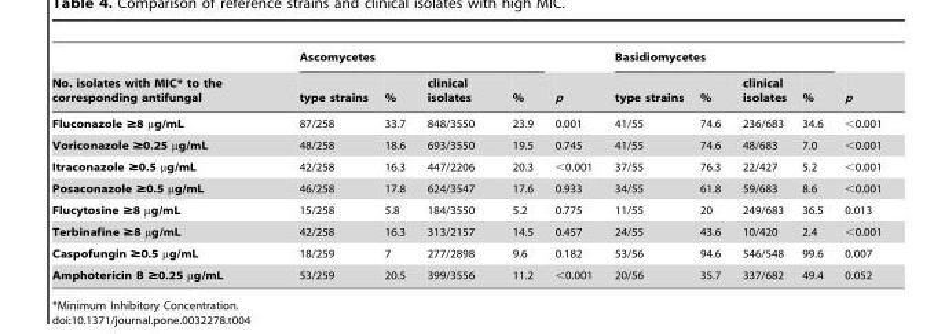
<table><thead><tr><td rowspan="2">No. isolates with MIC* to the corresponding antifungal</td><td colspan="4">Ascomycetes</td><td rowspan="2">p</td><td colspan="4">Basidiomycetes</td><td rowspan="2">p</td></tr><tr><td>type strains</td><td>%</td><td>clinical isolates</td><td>%</td><td>type strains</td><td>%</td><td>clinical isolates</td><td>%</td></tr></thead><tbody><tr><td>Fluconazole ≥8 µg/mL</td><td>87/258</td><td>33.7</td><td>848/3550</td><td>23.9</td><td>0.001</td><td>41/55</td><td>74.6</td><td>236/683</td><td>34.6</td><td>&lt;0.001</td></tr><tr><td>Voriconazole ≥0.25 µg/mL</td><td>48/258</td><td>18.6</td><td>693/3550</td><td>19.5</td><td>0.745</td><td>41/55</td><td>74.6</td><td>48/683</td><td>7.0</td><td>&lt;0.001</td></tr><tr><td>Itraconazole ≥0.5 µg/mL</td><td>42/258</td><td>16.3</td><td>447/2206</td><td>20.3</td><td>&lt;0.001</td><td>37/55</td><td>76.3</td><td>22/427</td><td>5.2</td><td>&lt;0.001</td></tr><tr><td>Posaconazole ≥0.5 µg/mL</td><td>46/258</td><td>17.8</td><td>624/3547</td><td>17.6</td><td>0.933</td><td>34/55</td><td>61.8</td><td>59/683</td><td>8.6</td><td>&lt;0.001</td></tr><tr><td>Flucytosine ≥8 µg/mL</td><td>15/258</td><td>5.8</td><td>184/3550</td><td>5.2</td><td>0.775</td><td>11/55</td><td>20</td><td>249/683</td><td>36.5</td><td>0.013</td></tr><tr><td>Terbinafine ≥8 µg/mL</td><td>42/258</td><td>16.3</td><td>313/2157</td><td>14.5</td><td>0.457</td><td>24/55</td><td>43.6</td><td>10/420</td><td>2.4</td><td>&lt;0.001</td></tr><tr><td>Caspofungin ≥0.5 µg/mL</td><td>18/259</td><td>7</td><td>277/2898</td><td>9.6</td><td>0.182</td><td>53/56</td><td>94.6</td><td>546/548</td><td>99.6</td><td>0.007</td></tr><tr><td>Amphotericin B ≥0.25 µg/mL</td><td>53/259</td><td>20.5</td><td>399/3556</td><td>11.2</td><td>&lt;0.001</td><td>20/56</td><td>35.7</td><td>337/682</td><td>49.4</td><td>0.052</td></tr></tbody></table>